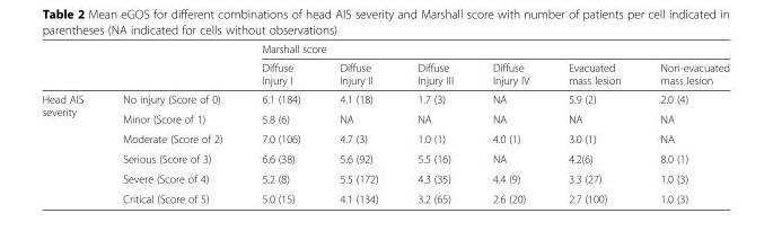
<table><thead><tr><td rowspan="2"></td><td rowspan="2"></td><td colspan="6">Marshall score</td></tr><tr><td>Diffuse Injury I</td><td>Diffuse Injury II</td><td>Diffuse Injury III</td><td>Diffuse Injury IV</td><td>Evacuated mass lesion</td><td>Non-evacuated mass lesion</td></tr></thead><tbody><tr><td rowspan="6">Head AIS severity</td><td>No injury (Score of 0)</td><td>6.1 (184)</td><td>4.1 (18)</td><td>1.7 (3)</td><td>NA</td><td>5.9 (2)</td><td>2.0 (4)</td></tr><tr><td>Minor (Score of 1)</td><td>5.8 (6)</td><td>NA</td><td>NA</td><td>NA</td><td>NA</td><td>NA</td></tr><tr><td>Moderate (Score of 2)</td><td>7.0 (106)</td><td>4.7 (3)</td><td>1.0 (1)</td><td>4.0 (1)</td><td>3.0 (1)</td><td>NA</td></tr><tr><td>Serious (Score of 3)</td><td>6.6 (38)</td><td>5.6 (92)</td><td>5.5 (16)</td><td>NA</td><td>4.2(6)</td><td>8.0 (1)</td></tr><tr><td>Severe (Score of 4)</td><td>5.2 (8)</td><td>5.5 (172)</td><td>4.3 (35)</td><td>4.4 (9)</td><td>3.3 (27)</td><td>1.0 (3)</td></tr><tr><td>Critical (Score of 5)</td><td>5.0 (15)</td><td>4.1 (134)</td><td>3.2 (65)</td><td>2.6 (20)</td><td>2.7 (100)</td><td>1.0 (3)</td></tr></tbody></table>